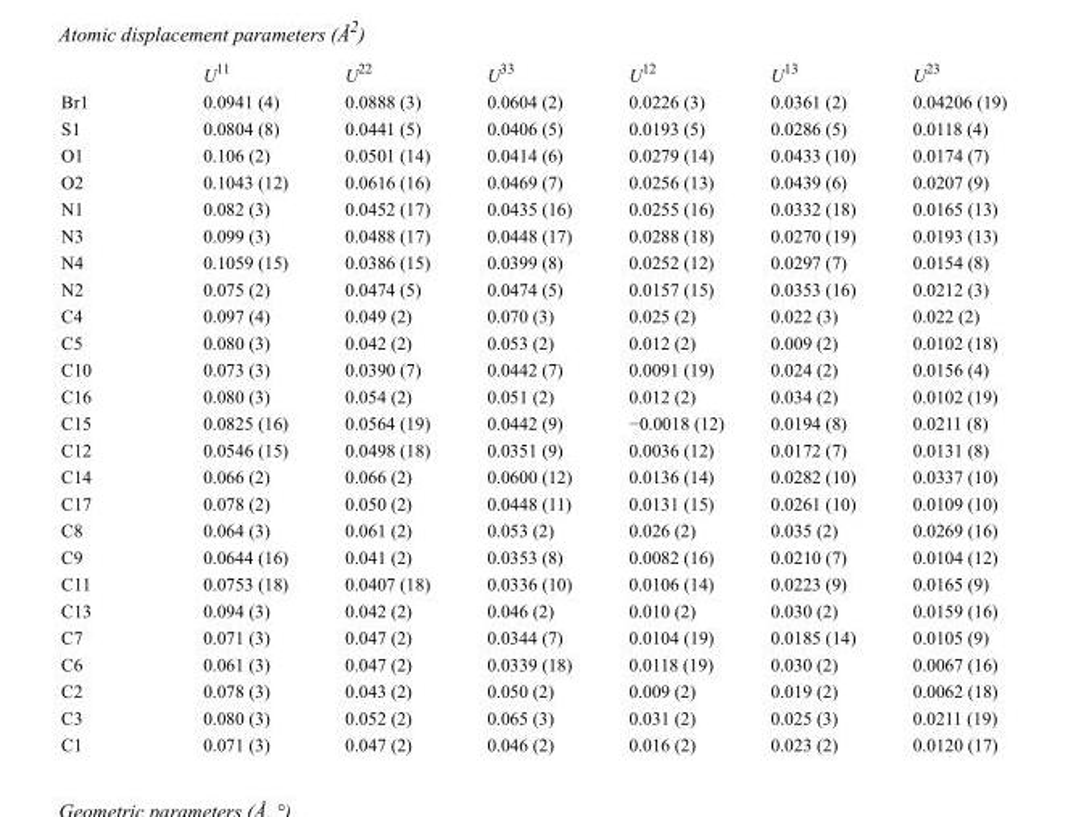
<table><thead><tr><td></td><td>U<sup>11</sup></td><td>U<sup>22</sup></td><td>U<sup>33</sup></td><td>U<sup>12</sup></td><td>U<sup>13</sup></td><td>U<sup>23</sup></td></tr></thead><tbody><tr><td>Br1</td><td>0.0941 (4)</td><td>0.0888 (3)</td><td>0.0604 (2)</td><td>0.0226 (3)</td><td>0.0361 (2)</td><td>0.04206 (19)</td></tr><tr><td>S1</td><td>0.0804 (8)</td><td>0.0441 (5)</td><td>0.0406 (5)</td><td>0.0193 (5)</td><td>0.0286 (5)</td><td>0.0118 (4)</td></tr><tr><td>O1</td><td>0.106 (2)</td><td>0.0501 (14)</td><td>0.0414 (6)</td><td>0.0279 (14)</td><td>0.0433 (10)</td><td>0.0174 (7)</td></tr><tr><td>O2</td><td>0.1043 (12)</td><td>0.0616 (16)</td><td>0.0469 (7)</td><td>0.0256 (13)</td><td>0.0439 (6)</td><td>0.0207 (9)</td></tr><tr><td>N1</td><td>0.082 (3)</td><td>0.0452 (17)</td><td>0.0435 (16)</td><td>0.0255 (16)</td><td>0.0332 (18)</td><td>0.0165 (13)</td></tr><tr><td>N3</td><td>0.099 (3)</td><td>0.0488 (17)</td><td>0.0448 (17)</td><td>0.0288 (18)</td><td>0.0270 (19)</td><td>0.0193 (13)</td></tr><tr><td>N4</td><td>0.1059 (15)</td><td>0.0386 (15)</td><td>0.0399 (8)</td><td>0.0252 (12)</td><td>0.0297 (7)</td><td>0.0154 (8)</td></tr><tr><td>N2</td><td>0.075 (2)</td><td>0.0474 (5)</td><td>0.0474 (5)</td><td>0.0157 (15)</td><td>0.0353 (16)</td><td>0.0212 (3)</td></tr><tr><td>C4</td><td>0.097 (4)</td><td>0.049 (2)</td><td>0.070 (3)</td><td>0.025 (2)</td><td>0.022 (3)</td><td>0.022 (2)</td></tr><tr><td>C5</td><td>0.080 (3)</td><td>0.042 (2)</td><td>0.053 (2)</td><td>0.012 (2)</td><td>0.009 (2)</td><td>0.0102 (18)</td></tr><tr><td>C10</td><td>0.073 (3)</td><td>0.0390 (7)</td><td>0.0442 (7)</td><td>0.0091 (19)</td><td>0.024 (2)</td><td>0.0156 (4)</td></tr><tr><td>C16</td><td>0.080 (3)</td><td>0.054 (2)</td><td>0.051 (2)</td><td>0.012 (2)</td><td>0.034 (2)</td><td>0.0102 (19)</td></tr><tr><td>C15</td><td>0.0825 (16)</td><td>0.0564 (19)</td><td>0.0442 (9)</td><td>−0.0018 (12)</td><td>0.0194 (8)</td><td>0.0211 (8)</td></tr><tr><td>C12</td><td>0.0546 (15)</td><td>0.0498 (18)</td><td>0.0351 (9)</td><td>0.0036 (12)</td><td>0.0172 (7)</td><td>0.0131 (8)</td></tr><tr><td>C14</td><td>0.066 (2)</td><td>0.066 (2)</td><td>0.0600 (12)</td><td>0.0136 (14)</td><td>0.0282 (10)</td><td>0.0337 (10)</td></tr><tr><td>C17</td><td>0.078 (2)</td><td>0.050 (2)</td><td>0.0448 (11)</td><td>0.0131 (15)</td><td>0.0261 (10)</td><td>0.0109 (10)</td></tr><tr><td>C8</td><td>0.064 (3)</td><td>0.061 (2)</td><td>0.053 (2)</td><td>0.026 (2)</td><td>0.035 (2)</td><td>0.0269 (16)</td></tr><tr><td>C9</td><td>0.0644 (16)</td><td>0.041 (2)</td><td>0.0353 (8)</td><td>0.0082 (16)</td><td>0.0210 (7)</td><td>0.0104 (12)</td></tr><tr><td>C11</td><td>0.0753 (18)</td><td>0.0407 (18)</td><td>0.0336 (10)</td><td>0.0106 (14)</td><td>0.0223 (9)</td><td>0.0165 (9)</td></tr><tr><td>C13</td><td>0.094 (3)</td><td>0.042 (2)</td><td>0.046 (2)</td><td>0.010 (2)</td><td>0.030 (2)</td><td>0.0159 (16)</td></tr><tr><td>C7</td><td>0.071 (3)</td><td>0.047 (2)</td><td>0.0344 (7)</td><td>0.0104 (19)</td><td>0.0185 (14)</td><td>0.0105 (9)</td></tr><tr><td>C6</td><td>0.061 (3)</td><td>0.047 (2)</td><td>0.0339 (18)</td><td>0.0118 (19)</td><td>0.030 (2)</td><td>0.0067 (16)</td></tr><tr><td>C2</td><td>0.078 (3)</td><td>0.043 (2)</td><td>0.050 (2)</td><td>0.009 (2)</td><td>0.019 (2)</td><td>0.0062 (18)</td></tr><tr><td>C3</td><td>0.080 (3)</td><td>0.052 (2)</td><td>0.065 (3)</td><td>0.031 (2)</td><td>0.025 (3)</td><td>0.0211 (19)</td></tr><tr><td>C1</td><td>0.071 (3)</td><td>0.047 (2)</td><td>0.046 (2)</td><td>0.016 (2)</td><td>0.023 (2)</td><td>0.0120 (17)</td></tr></tbody></table>